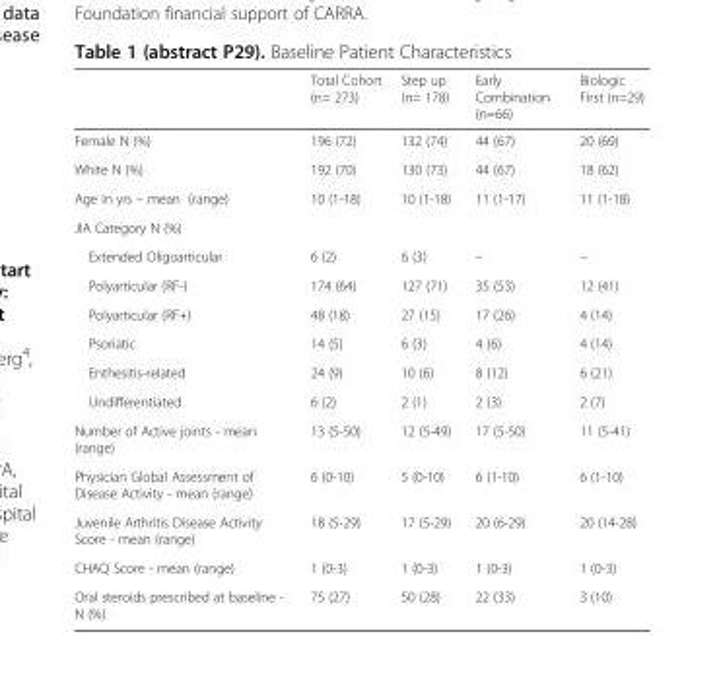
<table><thead><tr><td></td><td>Total Cohort (n= 273)</td><td>Step up (n= 178)</td><td>Early Combination (n=66)</td><td>Biologic First (n=29)</td></tr></thead><tbody><tr><td>Female N (%)</td><td>196 (72)</td><td>132 (74)</td><td>44 (67)</td><td>20 (69)</td></tr><tr><td>White N (%)</td><td>192 (70)</td><td>130 (73)</td><td>44 (67)</td><td>18 (62)</td></tr><tr><td>Age in yrs – mean (range)</td><td>10 (1-18)</td><td>10 (1-18)</td><td>11 (1-17)</td><td>11 (1-18)</td></tr><tr><td colspan="5">JIA Category N (%)</td></tr><tr><td>Extended Oligoarticular</td><td>6 (2)</td><td>6 (3)</td><td>–</td><td>–</td></tr><tr><td>Polyarticular (RF-)</td><td>174 (64)</td><td>127 (71)</td><td>35 (53)</td><td>12 (41)</td></tr><tr><td>Polyarticular (RF+)</td><td>48 (18)</td><td>27 (15)</td><td>17 (26)</td><td>4 (14)</td></tr><tr><td>Psoriatic</td><td>14 (5)</td><td>6 (3)</td><td>4 (6)</td><td>4 (14)</td></tr><tr><td>Enthesitis-related</td><td>24 (9)</td><td>10 (6)</td><td>8 (12)</td><td>6 (21)</td></tr><tr><td>Undifferentiated</td><td>6 (2)</td><td>2 (1)</td><td>2 (3)</td><td>2 (7)</td></tr><tr><td>Number of Active joints - mean (range)</td><td>13 (5-50)</td><td>12 (5-49)</td><td>17 (5-50)</td><td>11 (5-41)</td></tr><tr><td>Physician Global Assessment of Disease Activity - mean (range)</td><td>6 (0-10)</td><td>5 (0-10)</td><td>6 (1-10)</td><td>6 (1-10)</td></tr><tr><td>Juvenile Arthritis Disease Activity Score - mean (range)</td><td>18 (5-29)</td><td>17 (5-29)</td><td>20 (6-29)</td><td>20 (14-28)</td></tr><tr><td>CHAQ Score - mean (range)</td><td>1 (0-3)</td><td>1 (0-3)</td><td>1 (0-3)</td><td>1 (0-3)</td></tr><tr><td>Oral steroids prescribed at baseline - N (%)</td><td>75 (27)</td><td>50 (28)</td><td>22 (33)</td><td>3 (10)</td></tr></tbody></table>